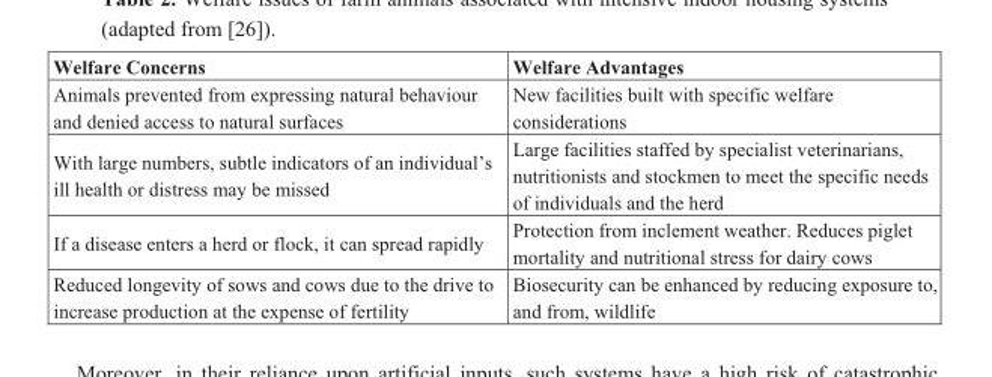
<table><thead><tr><td>Welfare Concerns</td><td>Welfare Advantages</td></tr></thead><tbody><tr><td>Animals prevented from expressing natural behaviour and denied access to natural surfaces</td><td>New facilities built with specific welfare considerations</td></tr><tr><td>With large numbers, subtle indicators of an individual’s ill health or distress may be missed</td><td>Large facilities staffed by specialist veterinarians, nutritionists and stockmen to meet the specific needs of individuals and the herd</td></tr><tr><td>If a disease enters a herd or flock, it can spread rapidly</td><td>Protection from inclement weather. Reduces piglet mortality and nutritional stress for dairy cows</td></tr><tr><td>Reduced longevity of sows and cows due to the drive to increase production at the expense of fertility</td><td>Biosecurity can be enhanced by reducing exposure to, and from, wildlife</td></tr></tbody></table>